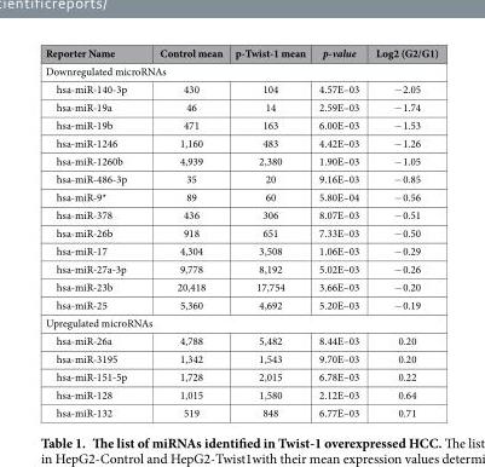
<table><thead><tr><td>Reporter Name</td><td>Control mean</td><td>p-Twist-1 mean</td><td>p-value</td><td>Log2 (G2/G1)</td></tr></thead><tbody><tr><td colspan="5">Downregulated microRNAs</td></tr><tr><td>hsa-miR-140-3p</td><td>430</td><td>104</td><td>4.57E–03</td><td>− 2.05</td></tr><tr><td>hsa-miR-19a</td><td>46</td><td>14</td><td>2.59E–03</td><td>− 1.74</td></tr><tr><td>hsa-miR-19b</td><td>471</td><td>163</td><td>6.00E–03</td><td>− 1.53</td></tr><tr><td>hsa-miR-1246</td><td>1,160</td><td>483</td><td>4.42E–03</td><td>− 1.26</td></tr><tr><td>hsa-miR-1260b</td><td>4,939</td><td>2,380</td><td>1.90E–03</td><td>− 1.05</td></tr><tr><td>hsa-miR-486-3p</td><td>35</td><td>20</td><td>9.16E–03</td><td>− 0.85</td></tr><tr><td>hsa-miR-9*</td><td>89</td><td>60</td><td>5.80E–04</td><td>− 0.56</td></tr><tr><td>hsa-miR-378</td><td>436</td><td>306</td><td>8.07E–03</td><td>− 0.51</td></tr><tr><td>hsa-miR-26b</td><td>918</td><td>651</td><td>7.33E–03</td><td>− 0.50</td></tr><tr><td>hsa-miR-17</td><td>4,304</td><td>3,508</td><td>1.06E–03</td><td>− 0.29</td></tr><tr><td>hsa-miR-27a-3p</td><td>9,778</td><td>8,192</td><td>5.02E–03</td><td>− 0.26</td></tr><tr><td>hsa-miR-23b</td><td>20,418</td><td>17,754</td><td>3.66E–03</td><td>− 0.20</td></tr><tr><td>hsa-miR-25</td><td>5,360</td><td>4,692</td><td>5.20E–03</td><td>− 0.19</td></tr><tr><td colspan="5">Upregulated microRNAs</td></tr><tr><td>hsa-miR-26a</td><td>4,788</td><td>5,482</td><td>8.44E–03</td><td>0.20</td></tr><tr><td>hsa-miR-3195</td><td>1,342</td><td>1,543</td><td>9.70E–03</td><td>0.20</td></tr><tr><td>hsa-miR-151-5p</td><td>1,728</td><td>2,015</td><td>6.78E–03</td><td>0.22</td></tr><tr><td>hsa-miR-128</td><td>1,015</td><td>1,580</td><td>2.12E–03</td><td>0.64</td></tr><tr><td>hsa-miR-132</td><td>519</td><td>848</td><td>6.77E–03</td><td>0.71</td></tr></tbody></table>